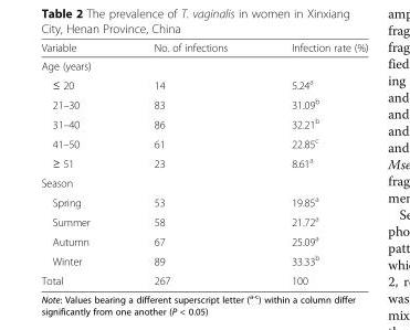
<table><thead><tr><td>Variable</td><td>No. of infections</td><td>Infection rate (%)</td></tr></thead><tbody><tr><td colspan="3">Age (years)</td></tr><tr><td>≤ 20</td><td>14</td><td>5.24<sup>a</sup></td></tr><tr><td>21–30</td><td>83</td><td>31.09<sup>b</sup></td></tr><tr><td>31–40</td><td>86</td><td>32.21<sup>b</sup></td></tr><tr><td>41–50</td><td>61</td><td>22.85<sup>c</sup></td></tr><tr><td>≥ 51</td><td>23</td><td>8.61<sup>a</sup></td></tr><tr><td colspan="3">Season</td></tr><tr><td>Spring</td><td>53</td><td>19.85<sup>a</sup></td></tr><tr><td>Summer</td><td>58</td><td>21.72<sup>a</sup></td></tr><tr><td>Autumn</td><td>67</td><td>25.09<sup>a</sup></td></tr><tr><td>Winter</td><td>89</td><td>33.33<sup>b</sup></td></tr><tr><td>Total</td><td>267</td><td>100</td></tr></tbody></table>